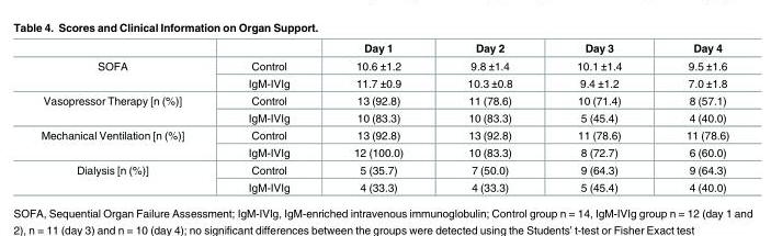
<table><thead><tr><td></td><td></td><td>Day 1</td><td>Day 2</td><td>Day 3</td><td>Day 4</td></tr></thead><tbody><tr><td rowspan="2">SOFA</td><td>Control</td><td>10.6 ±1.2</td><td>9.8 ±1.4</td><td>10.1 ±1.4</td><td>9.5 ±1.6</td></tr><tr><td>IgM-IVIg</td><td>11.7 ±0.9</td><td>10.3 ±0.8</td><td>9.4 ±1.2</td><td>7.0 ±1.8</td></tr><tr><td rowspan="2">Vasopressor Therapy [n (%)]</td><td>Control</td><td>13 (92.8)</td><td>11 (78.6)</td><td>10 (71.4)</td><td>8 (57.1)</td></tr><tr><td>IgM-IVIg</td><td>10 (83.3)</td><td>10 (83.3)</td><td>5 (45.4)</td><td>4 (40.0)</td></tr><tr><td rowspan="2">Mechanical Ventilation [n (%)]</td><td>Control</td><td>13 (92.8)</td><td>13 (92.8)</td><td>11 (78.6)</td><td>11 (78.6)</td></tr><tr><td>IgM-IVIg</td><td>12 (100.0)</td><td>10 (83.3)</td><td>8 (72.7)</td><td>6 (60.0)</td></tr><tr><td rowspan="2">Dialysis [n (%)]</td><td>Control</td><td>5 (35.7)</td><td>7 (50.0)</td><td>9 (64.3)</td><td>9 (64.3)</td></tr><tr><td>IgM-IVIg</td><td>4 (33.3)</td><td>4 (33.3)</td><td>5 (45.4)</td><td>4 (40.0)</td></tr></tbody></table>